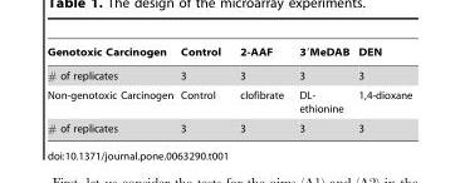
<table><thead><tr><td>Genotoxic Carcinogen</td><td>Control</td><td>2-AAF</td><td>3′MeDAB</td><td>DEN</td></tr></thead><tbody><tr><td># of replicates</td><td>3</td><td>3</td><td>3</td><td>3</td></tr><tr><td>Non-genotoxic Carcinogen</td><td>Control</td><td>clofibrate</td><td>DL- ethionine</td><td>1,4-dioxane</td></tr><tr><td># of replicates</td><td>3</td><td>3</td><td>3</td><td>3</td></tr></tbody></table>